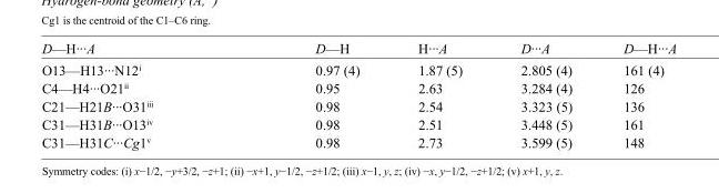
<table><tbody><tr><td>D—H···A</td><td>D—H</td><td>H···A</td><td>D···A</td><td>D—H···A</td></tr><tr><td>O13—H13···N12<sup>i</sup></td><td>0.97 (4)</td><td>1.87 (5)</td><td>2.805 (4)</td><td>161 (4)</td></tr><tr><td>C4—H4···O21<sup>ii</sup></td><td>0.95</td><td>2.63</td><td>3.284 (4)</td><td>126</td></tr><tr><td>C21—H21B···O31<sup>iii</sup></td><td>0.98</td><td>2.54</td><td>3.323 (5)</td><td>136</td></tr><tr><td>C31—H31B···O13<sup>iv</sup></td><td>0.98</td><td>2.51</td><td>3.448 (5)</td><td>161</td></tr><tr><td>C31—H31C···Cg1<sup>v</sup></td><td>0.98</td><td>2.73</td><td>3.599 (5)</td><td>148</td></tr></tbody></table>